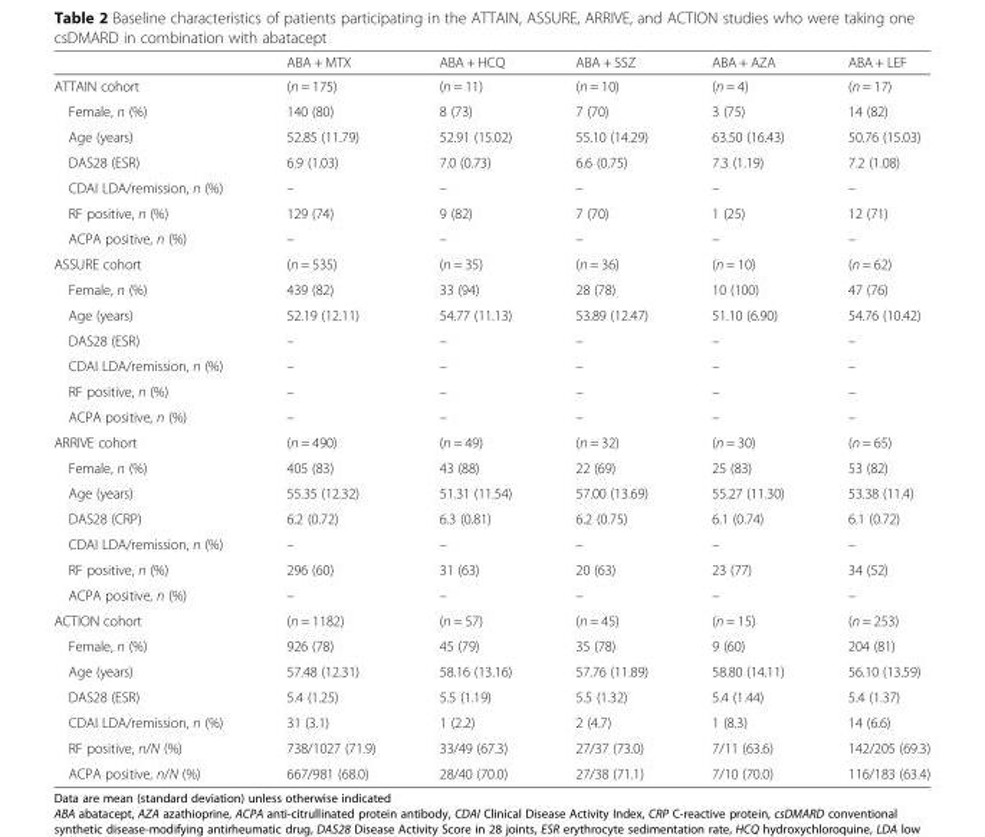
<table><thead><tr><td></td><td>ABA + MTX</td><td>ABA + HCQ</td><td>ABA + SSZ</td><td>ABA + AZA</td><td>ABA + LEF</td></tr></thead><tbody><tr><td>ATTAIN cohort</td><td>(n = 175)</td><td>(n = 11)</td><td>(n = 10)</td><td>(n = 4)</td><td>(n = 17)</td></tr><tr><td>Female, n (%)</td><td>140 (80)</td><td>8 (73)</td><td>7 (70)</td><td>3 (75)</td><td>14 (82)</td></tr><tr><td>Age (years)</td><td>52.85 (11.79)</td><td>52.91 (15.02)</td><td>55.10 (14.29)</td><td>63.50 (16.43)</td><td>50.76 (15.03)</td></tr><tr><td>DAS28 (ESR)</td><td>6.9 (1.03)</td><td>7.0 (0.73)</td><td>6.6 (0.75)</td><td>7.3 (1.19)</td><td>7.2 (1.08)</td></tr><tr><td>CDAI LDA/remission, n (%)</td><td>–</td><td>–</td><td>–</td><td>–</td><td>–</td></tr><tr><td>RF positive, n (%)</td><td>129 (74)</td><td>9 (82)</td><td>7 (70)</td><td>1 (25)</td><td>12 (71)</td></tr><tr><td>ACPA positive, n (%)</td><td>–</td><td>–</td><td>–</td><td>–</td><td>–</td></tr><tr><td>ASSURE cohort</td><td>(n = 535)</td><td>(n = 35)</td><td>(n = 36)</td><td>(n = 10)</td><td>(n = 62)</td></tr><tr><td>Female, n (%)</td><td>439 (82)</td><td>33 (94)</td><td>28 (78)</td><td>10 (100)</td><td>47 (76)</td></tr><tr><td>Age (years)</td><td>52.19 (12.11)</td><td>54.77 (11.13)</td><td>53.89 (12.47)</td><td>51.10 (6.90)</td><td>54.76 (10.42)</td></tr><tr><td>DAS28 (ESR)</td><td>–</td><td>–</td><td>–</td><td>–</td><td>–</td></tr><tr><td>CDAI LDA/remission, n (%)</td><td>–</td><td>–</td><td>–</td><td>–</td><td>–</td></tr><tr><td>RF positive, n (%)</td><td>–</td><td>–</td><td>–</td><td>–</td><td>–</td></tr><tr><td>ACPA positive, n (%)</td><td>–</td><td>–</td><td>–</td><td>–</td><td>–</td></tr><tr><td>ARRIVE cohort</td><td>(n = 490)</td><td>(n = 49)</td><td>(n = 32)</td><td>(n = 30)</td><td>(n = 65)</td></tr><tr><td>Female, n (%)</td><td>405 (83)</td><td>43 (88)</td><td>22 (69)</td><td>25 (83)</td><td>53 (82)</td></tr><tr><td>Age (years)</td><td>55.35 (12.32)</td><td>51.31 (11.54)</td><td>57.00 (13.69)</td><td>55.27 (11.30)</td><td>53.38 (11.4)</td></tr><tr><td>DAS28 (CRP)</td><td>6.2 (0.72)</td><td>6.3 (0.81)</td><td>6.2 (0.75)</td><td>6.1 (0.74)</td><td>6.1 (0.72)</td></tr><tr><td>CDAI LDA/remission, n (%)</td><td>–</td><td>–</td><td>–</td><td>–</td><td>–</td></tr><tr><td>RF positive, n (%)</td><td>296 (60)</td><td>31 (63)</td><td>20 (63)</td><td>23 (77)</td><td>34 (52)</td></tr><tr><td>ACPA positive, n (%)</td><td>–</td><td>–</td><td>–</td><td>–</td><td>–</td></tr><tr><td>ACTION cohort</td><td>(n = 1182)</td><td>(n = 57)</td><td>(n = 45)</td><td>(n = 15)</td><td>(n = 253)</td></tr><tr><td>Female, n (%)</td><td>926 (78)</td><td>45 (79)</td><td>35 (78)</td><td>9 (60)</td><td>204 (81)</td></tr><tr><td>Age (years)</td><td>57.48 (12.31)</td><td>58.16 (13.16)</td><td>57.76 (11.89)</td><td>58.80 (14.11)</td><td>56.10 (13.59)</td></tr><tr><td>DAS28 (ESR)</td><td>5.4 (1.25)</td><td>5.5 (1.19)</td><td>5.5 (1.32)</td><td>5.4 (1.44)</td><td>5.4 (1.37)</td></tr><tr><td>CDAI LDA/remission, n (%)</td><td>31 (3.1)</td><td>1 (2.2)</td><td>2 (4.7)</td><td>1 (8.3)</td><td>14 (6.6)</td></tr><tr><td>RF positive, n/N (%)</td><td>738/1027 (71.9)</td><td>33/49 (67.3)</td><td>27/37 (73.0)</td><td>7/11 (63.6)</td><td>142/205 (69.3)</td></tr><tr><td>ACPA positive, n/N (%)</td><td>667/981 (68.0)</td><td>28/40 (70.0)</td><td>27/38 (71.1)</td><td>7/10 (70.0)</td><td>116/183 (63.4)</td></tr></tbody></table>